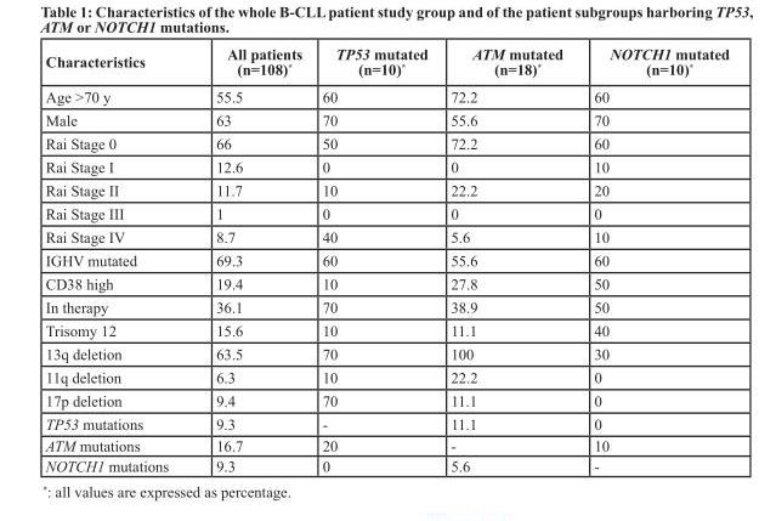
<table><thead><tr><td>Characteristics</td><td>All patients (n=108)*</td><td>TP53 mutated (n=10)*</td><td>ATM mutated (n=18)*</td><td>NOTCH1 mutated (n=10)*</td></tr></thead><tbody><tr><td>Age &gt;70 y</td><td>55.5</td><td>60</td><td>72.2</td><td>60</td></tr><tr><td>Male</td><td>63</td><td>70</td><td>55.6</td><td>70</td></tr><tr><td>Rai Stage 0</td><td>66</td><td>50</td><td>72.2</td><td>60</td></tr><tr><td>Rai Stage I</td><td>12.6</td><td>0</td><td>0</td><td>10</td></tr><tr><td>Rai Stage II</td><td>11.7</td><td>10</td><td>22.2</td><td>20</td></tr><tr><td>Rai Stage III</td><td>1</td><td>0</td><td>0</td><td>0</td></tr><tr><td>Rai Stage IV</td><td>8.7</td><td>40</td><td>5.6</td><td>10</td></tr><tr><td>IGHV mutated</td><td>69.3</td><td>60</td><td>55.6</td><td>60</td></tr><tr><td>CD38 high</td><td>19.4</td><td>10</td><td>27.8</td><td>50</td></tr><tr><td>In therapy</td><td>36.1</td><td>70</td><td>38.9</td><td>50</td></tr><tr><td>Trisomy 12</td><td>15.6</td><td>10</td><td>11.1</td><td>40</td></tr><tr><td>13q deletion</td><td>63.5</td><td>70</td><td>100</td><td>30</td></tr><tr><td>11q deletion</td><td>6.3</td><td>10</td><td>22.2</td><td>0</td></tr><tr><td>17p deletion</td><td>9.4</td><td>70</td><td>11.1</td><td>0</td></tr><tr><td>TP53 mutations</td><td>9.3</td><td>-</td><td>11.1</td><td>0</td></tr><tr><td>ATM mutations</td><td>16.7</td><td>20</td><td>-</td><td>10</td></tr><tr><td>NOTCH1 mutations</td><td>9.3</td><td>0</td><td>5.6</td><td>-</td></tr></tbody></table>